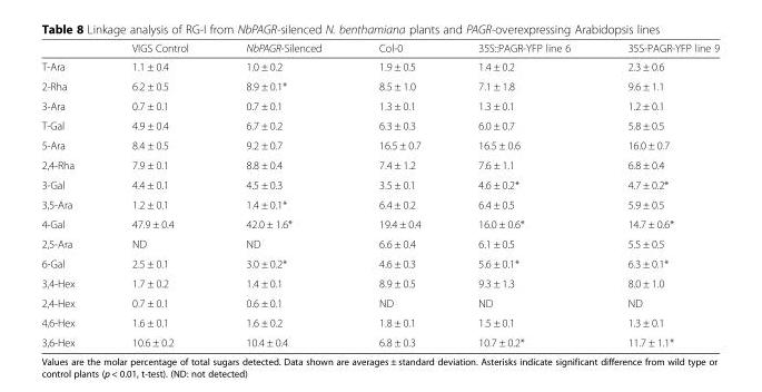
<table><thead><tr><td></td><td>VIGS Control</td><td>NbPAGR-Silenced</td><td>Col-0</td><td>35S::PAGR-YFP line 6</td><td>35S-PAGR-YFP line 9</td></tr></thead><tbody><tr><td>T-Ara</td><td>1.1 ± 0.4</td><td>1.0 ± 0.2</td><td>1.9 ± 0.5</td><td>1.4 ± 0.2</td><td>2.3 ± 0.6</td></tr><tr><td>2-Rha</td><td>6.2 ± 0.5</td><td>8.9 ± 0.1*</td><td>8.5 ± 1.0</td><td>7.1 ± 1.8</td><td>9.6 ± 1.1</td></tr><tr><td>3-Ara</td><td>0.7 ± 0.1</td><td>0.7 ± 0.1</td><td>1.3 ± 0.1</td><td>1.3 ± 0.1</td><td>1.2 ± 0.1</td></tr><tr><td>T-Gal</td><td>4.9 ± 0.4</td><td>6.7 ± 0.2</td><td>6.3 ± 0.3</td><td>6.0 ± 0.7</td><td>5.8 ± 0.5</td></tr><tr><td>5-Ara</td><td>8.4 ± 0.5</td><td>9.2 ± 0.7</td><td>16.5 ± 0.7</td><td>16.5 ± 0.6</td><td>16.0 ± 0.7</td></tr><tr><td>2,4-Rha</td><td>7.9 ± 0.1</td><td>8.8 ± 0.4</td><td>7.4 ± 1.2</td><td>7.6 ± 1.1</td><td>6.8 ± 0.4</td></tr><tr><td>3-Gal</td><td>4.4 ± 0.1</td><td>4.5 ± 0.3</td><td>3.5 ± 0.1</td><td>4.6 ± 0.2*</td><td>4.7 ± 0.2*</td></tr><tr><td>3,5-Ara</td><td>1.2 ± 0.1</td><td>1.4 ± 0.1*</td><td>6.4 ± 0.2</td><td>6.4 ± 0.5</td><td>5.9 ± 0.5</td></tr><tr><td>4-Gal</td><td>47.9 ± 0.4</td><td>42.0 ± 1.6*</td><td>19.4 ± 0.4</td><td>16.0 ± 0.6*</td><td>14.7 ± 0.6*</td></tr><tr><td>2,5-Ara</td><td>ND</td><td>ND</td><td>6.6 ± 0.4</td><td>6.1 ± 0.5</td><td>5.5 ± 0.5</td></tr><tr><td>6-Gal</td><td>2.5 ± 0.1</td><td>3.0 ± 0.2*</td><td>4.6 ± 0.3</td><td>5.6 ± 0.1*</td><td>6.3 ± 0.1*</td></tr><tr><td>3,4-Hex</td><td>1.7 ± 0.2</td><td>1.4 ± 0.1</td><td>8.9 ± 0.5</td><td>9.3 ± 1.3</td><td>8.0 ± 1.0</td></tr><tr><td>2,4-Hex</td><td>0.7 ± 0.1</td><td>0.6 ± 0.1</td><td>ND</td><td>ND</td><td>ND</td></tr><tr><td>4,6-Hex</td><td>1.6 ± 0.1</td><td>1.6 ± 0.2</td><td>1.8 ± 0.1</td><td>1.5 ± 0.1</td><td>1.3 ± 0.1</td></tr><tr><td>3,6-Hex</td><td>10.6 ± 0.2</td><td>10.4 ± 0.4</td><td>6.8 ± 0.3</td><td>10.7 ± 0.2*</td><td>11.7 ± 1.1*</td></tr></tbody></table>